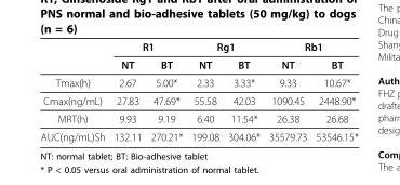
<table><thead><tr><td rowspan="2"></td><td colspan="2">R1</td><td colspan="2">Rg1</td><td colspan="2">Rb1</td></tr><tr><td>NT</td><td>BT</td><td>NT</td><td>BT</td><td>NT</td><td>BT</td></tr></thead><tbody><tr><td>Tmax(h)</td><td>2.67</td><td>5.00*</td><td>2.33</td><td>3.33*</td><td>9.33</td><td>10.67*</td></tr><tr><td>Cmax(ng/mL)</td><td>27.83</td><td>47.69*</td><td>55.58</td><td>42.03</td><td>1090.45</td><td>2448.90*</td></tr><tr><td>MRT(h)</td><td>9.93</td><td>9.19</td><td>6.40</td><td>11.54*</td><td>26.38</td><td>26.68</td></tr><tr><td>AUC(ng/mL)Sh</td><td>132.11</td><td>270.21*</td><td>199.08</td><td>304.06*</td><td>35579.73</td><td>53546.15*</td></tr></tbody></table>